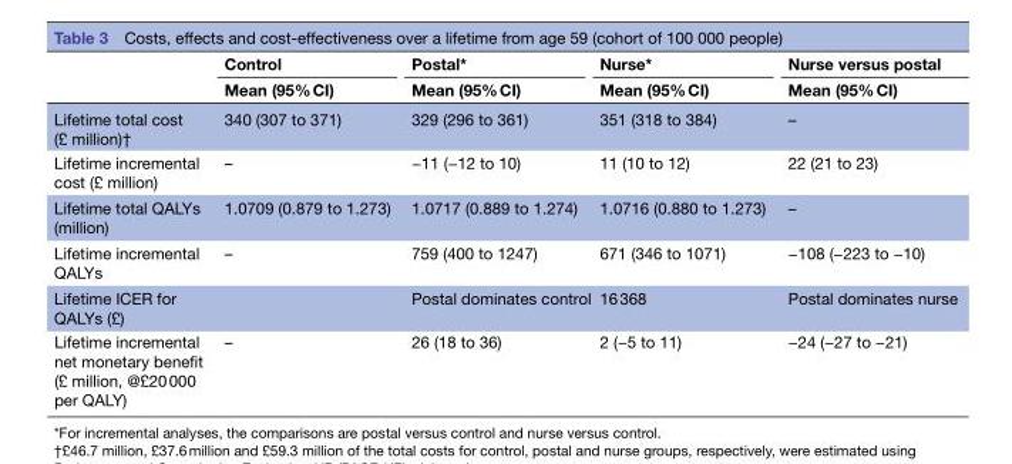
<table><thead><tr><td rowspan="2"></td><td rowspan="2">Control Mean (95% CI)</td><td rowspan="2">Postal* Mean (95% CI)</td><td rowspan="2">Nurse* Mean (95% CI)</td><td rowspan="2">Nurse versus postal Mean (95% CI)</td></tr><tr></tr></thead><tbody><tr><td>Lifetime total cost (£ million)†</td><td>340 (307 to 371)</td><td>329 (296 to 361)</td><td>351 (318 to 384)</td><td>–</td></tr><tr><td>Lifetime incremental cost (£ million)</td><td>–</td><td>−11 (−12 to 10)</td><td>11 (10 to 12)</td><td>22 (21 to 23)</td></tr><tr><td>Lifetime total QALYs (million)</td><td>1.0709 (0.879 to 1.273)</td><td>1.0717 (0.889 to 1.274)</td><td>1.0716 (0.880 to 1.273)</td><td>–</td></tr><tr><td>Lifetime incremental QALYs</td><td>–</td><td>759 (400 to 1247)</td><td>671 (346 to 1071)</td><td>−108 (−223 to −10)</td></tr><tr><td>Lifetime ICER for QALYs (£)</td><td></td><td>Postal dominates control</td><td>16 368</td><td>Postal dominates nurse</td></tr><tr><td>Lifetime incremental net monetary benefit (£ million, @£20 000 per QALY)</td><td>–</td><td>26 (18 to 36)</td><td>2 (−5 to 11)</td><td>−24 (−27 to −21)</td></tr></tbody></table>